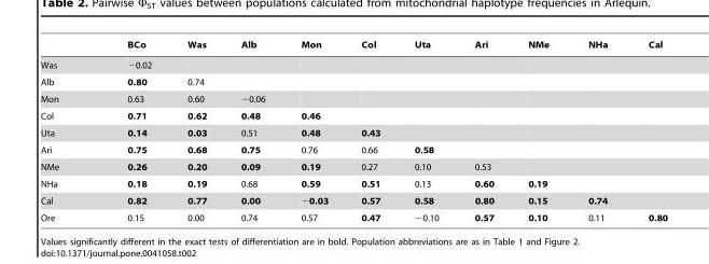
<table><thead><tr><td></td><td>BCo</td><td>Was</td><td>Alb</td><td>Mon</td><td>Col</td><td>Uta</td><td>Ari</td><td>NMe</td><td>NHa</td><td>Cal</td></tr></thead><tbody><tr><td>Was</td><td>−0.02</td><td></td><td></td><td></td><td></td><td></td><td></td><td></td><td></td><td></td></tr><tr><td>Alb</td><td>0.80</td><td>0.74</td><td></td><td></td><td></td><td></td><td></td><td></td><td></td><td></td></tr><tr><td>Mon</td><td>0.63</td><td>0.60</td><td>−0.06</td><td></td><td></td><td></td><td></td><td></td><td></td><td></td></tr><tr><td>Col</td><td>0.71</td><td>0.62</td><td>0.48</td><td>0.46</td><td></td><td></td><td></td><td></td><td></td><td></td></tr><tr><td>Uta</td><td>0.14</td><td>0.03</td><td>0.51</td><td>0.48</td><td>0.43</td><td></td><td></td><td></td><td></td><td></td></tr><tr><td>Ari</td><td>0.75</td><td>0.68</td><td>0.75</td><td>0.76</td><td>0.66</td><td>0.58</td><td></td><td></td><td></td><td></td></tr><tr><td>NMe</td><td>0.26</td><td>0.20</td><td>0.09</td><td>0.19</td><td>0.27</td><td>0.10</td><td>0.53</td><td></td><td></td><td></td></tr><tr><td>NHa</td><td>0.18</td><td>0.19</td><td>0.68</td><td>0.59</td><td>0.51</td><td>0.13</td><td>0.60</td><td>0.19</td><td></td><td></td></tr><tr><td>Cal</td><td>0.82</td><td>0.77</td><td>0.00</td><td>−0.03</td><td>0.57</td><td>0.58</td><td>0.80</td><td>0.15</td><td>0.74</td><td></td></tr><tr><td>Ore</td><td>0.15</td><td>0.00</td><td>0.74</td><td>0.57</td><td>0.47</td><td>−0.10</td><td>0.57</td><td>0.10</td><td>0.11</td><td>0.80</td></tr></tbody></table>